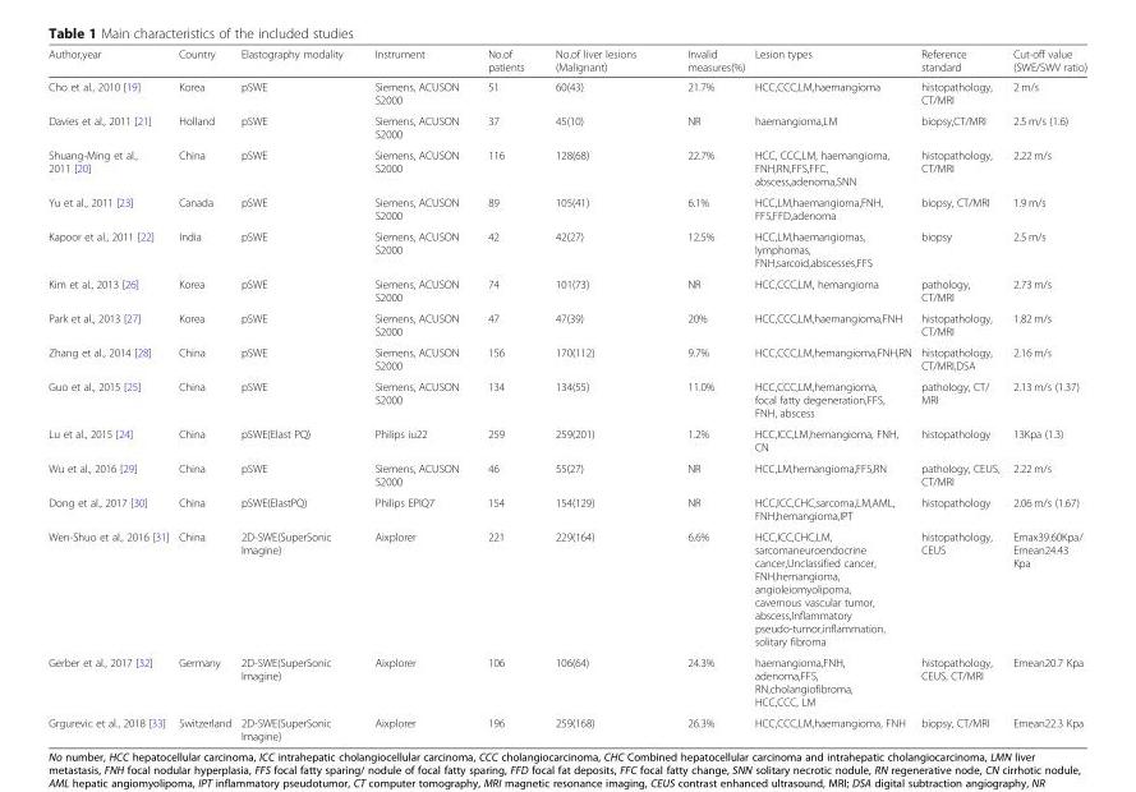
<table><thead><tr><td>Author,year</td><td>Country</td><td>Elastography modality</td><td>Instrument</td><td>No.of patients</td><td>No.of liver lesions (Malignant)</td><td>Invalid measures(%)</td><td>Lesion types</td><td>Reference standard</td><td>Cut-off value (SWE/SWV ratio)</td></tr></thead><tbody><tr><td>Cho et al., 2010 [19]</td><td>Korea</td><td>pSWE</td><td>Siemens, ACUSON S2000</td><td>51</td><td>60(43)</td><td>21.7%</td><td>HCC,CCC,LM,haemangioma</td><td>histopathology, CT/MRI</td><td>2 m/s</td></tr><tr><td>Davies et al., 2011 [21]</td><td>Holland</td><td>pSWE</td><td>Siemens, ACUSON S2000</td><td>37</td><td>45(10)</td><td>NR</td><td>haemangioma,LM</td><td>biopsy,CT/MRI</td><td>2.5 m/s (1.6)</td></tr><tr><td>Shuang-Ming et al., 2011 [20]</td><td>China</td><td>pSWE</td><td>Siemens, ACUSON S2000</td><td>116</td><td>128(68)</td><td>22.7%</td><td>HCC, CCC,LM, haemangioma, FNH,RN,FFS,FFC, abscess,adenoma,SNN</td><td>histopathology, CT/MRI</td><td>2.22 m/s</td></tr><tr><td>Yu et al., 2011 [23]</td><td>Canada</td><td>pSWE</td><td>Siemens, ACUSON S2000</td><td>89</td><td>105(41)</td><td>6.1%</td><td>HCC,LM,haemangioma,FNH, FFS,FFD,adenoma</td><td>biopsy, CT/MRI</td><td>1.9 m/s</td></tr><tr><td>Kapoor et al., 2011 [22]</td><td>India</td><td>pSWE</td><td>Siemens, ACUSON S2000</td><td>42</td><td>42(27)</td><td>12.5%</td><td>HCC,LM,haemangiomas, lymphomas, FNH,sarcoid,abscesses,FFS</td><td>biopsy</td><td>2.5 m/s</td></tr><tr><td>Kim et al., 2013 [26]</td><td>Korea</td><td>pSWE</td><td>Siemens, ACUSON S2000</td><td>74</td><td>101(73)</td><td>NR</td><td>HCC,CCC,LM, hemangioma</td><td>pathology, CT/MRI</td><td>2.73 m/s</td></tr><tr><td>Park et al., 2013 [27]</td><td>Korea</td><td>pSWE</td><td>Siemens, ACUSON S2000</td><td>47</td><td>47(39)</td><td>20%</td><td>HCC,CCC,LM,haemangioma,FNH</td><td>histopathology, CT/MRI</td><td>1.82 m/s</td></tr><tr><td>Zhang et al., 2014 [28]</td><td>China</td><td>pSWE</td><td>Siemens, ACUSON S2000</td><td>156</td><td>170(112)</td><td>9.7%</td><td>HCC,CCC,LM,hemangioma,FNH,RN</td><td>histopathology, CT/MRI,DSA</td><td>2.16 m/s</td></tr><tr><td>Guo et al., 2015 [25]</td><td>China</td><td>pSWE</td><td>Siemens, ACUSON S2000</td><td>134</td><td>134(55)</td><td>11.0%</td><td>HCC,CCC,LM,hemangioma, focal fatty degeneration,FFS, FNH, abscess</td><td>pathology, CT/ MRI</td><td>2.13 m/s (1.37)</td></tr><tr><td>Lu et al., 2015 [24]</td><td>China</td><td>pSWE(Elast PQ)</td><td>Philips iu22</td><td>259</td><td>259(201)</td><td>1.2%</td><td>HCC,ICC,LM,hemangioma, FNH, CN</td><td>histopathology</td><td>13Kpa (1.3)</td></tr><tr><td>Wu et al., 2016 [29]</td><td>China</td><td>pSWE</td><td>Siemens, ACUSON S2000</td><td>46</td><td>55(27)</td><td>NR</td><td>HCC,LM,hemangioma,FFS,RN</td><td>pathology, CEUS, CT/MRI</td><td>2.22 m/s</td></tr><tr><td>Dong et al., 2017 [30]</td><td>China</td><td>pSWE(ElastPQ)</td><td>Philips EPIQ7</td><td>154</td><td>154(129)</td><td>NR</td><td>HCC,ICC,CHC,sarcoma,LM,AML, FNH,hemangioma,IPT</td><td>histopathology</td><td>2.06 m/s (1.67)</td></tr><tr><td>Wen-Shuo et al., 2016 [31]</td><td>China</td><td>2D-SWE(SuperSonic Imagine)</td><td>Aixplorer</td><td>221</td><td>229(164)</td><td>6.6%</td><td>HCC,ICC,CHC,LM, sarcomaneuroendocrine cancer,Unclassified cancer, FNH,hemangioma, angioleiomyolipoma, cavernous vascular tumor, abscess,Inflammatory pseudo-tumor,inflammation, solitary fibroma</td><td>histopathology, CEUS</td><td>Emax39.60Kpa/ Emean24.43 Kpa</td></tr><tr><td>Gerber et al., 2017 [32]</td><td>Germany</td><td>2D-SWE(SuperSonic Imagine)</td><td>Aixplorer</td><td>106</td><td>106(64)</td><td>24.3%</td><td>haemangioma,FNH, adenoma,FFS, RN,cholangiofibroma, HCC,CCC, LM</td><td>histopathology, CEUS, CT/MRI</td><td>Emean20.7 Kpa</td></tr><tr><td>Grgurevic et al., 2018 [33]</td><td>Switzerland</td><td>2D-SWE(SuperSonic Imagine)</td><td>Aixplorer</td><td>196</td><td>259(168)</td><td>26.3%</td><td>HCC,CCC,LM,haemangioma, FNH</td><td>biopsy, CT/MRI</td><td>Emean22.3 Kpa</td></tr></tbody></table>